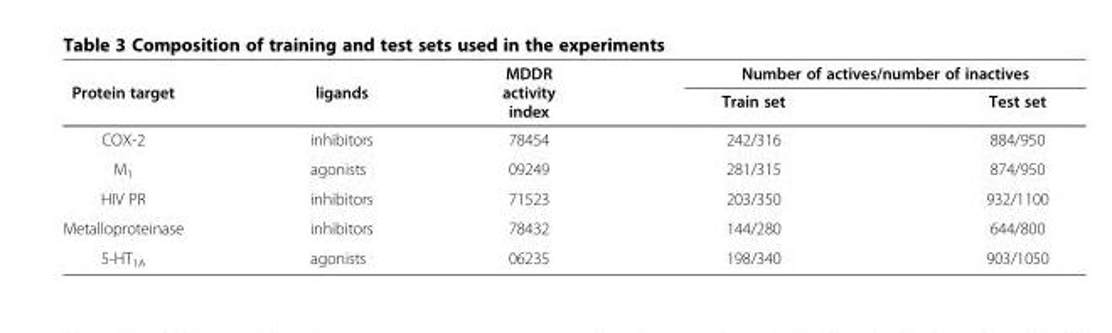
<table><thead><tr><td rowspan="2">Protein target</td><td rowspan="2">ligands</td><td rowspan="2">MDDR activity index</td><td colspan="2">Number of actives/number of inactives</td></tr><tr><td>Train set</td><td>Test set</td></tr></thead><tbody><tr><td>COX-2</td><td>inhibitors</td><td>78454</td><td>242/316</td><td>884/950</td></tr><tr><td>M<sub>1</sub></td><td>agonists</td><td>09249</td><td>281/315</td><td>874/950</td></tr><tr><td>HIV PR</td><td>inhibitors</td><td>71523</td><td>203/350</td><td>932/1100</td></tr><tr><td>Metalloproteinase</td><td>inhibitors</td><td>78432</td><td>144/280</td><td>644/800</td></tr><tr><td>5-HT<sub>1A</sub></td><td>agonists</td><td>06235</td><td>198/340</td><td>903/1050</td></tr></tbody></table>